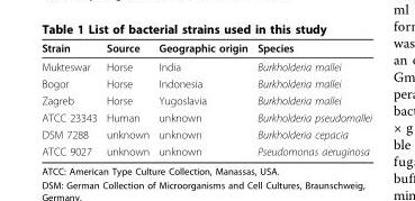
<table><thead><tr><td>Strain</td><td>Source</td><td>Geographic origin</td><td>Species</td></tr></thead><tbody><tr><td>Mukteswar</td><td>Horse</td><td>India</td><td>Burkholderia mallei</td></tr><tr><td>Bogor</td><td>Horse</td><td>Indonesia</td><td>Burkholderia mallei</td></tr><tr><td>Zagreb</td><td>Horse</td><td>Yugoslavia</td><td>Burkholderia mallei</td></tr><tr><td>ATCC 23343</td><td>Human</td><td>unknown</td><td>Burkholderia pseudomallei</td></tr><tr><td>DSM 7288</td><td>unknown</td><td>unknown</td><td>Burkholderia cepacia</td></tr><tr><td>ATCC 9027</td><td>unknown</td><td>unknown</td><td>Pseudomonas aeruginosa</td></tr></tbody></table>